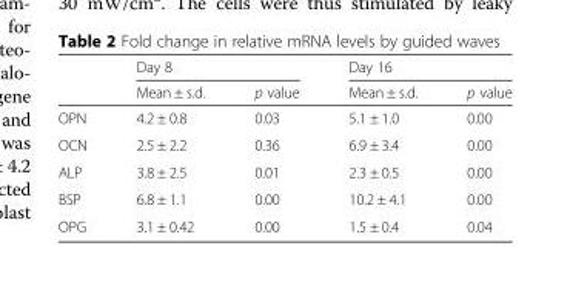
<table><thead><tr><td rowspan="2"></td><td colspan="2">Day 8</td><td colspan="2">Day 16</td></tr><tr><td>Mean ± s.d.</td><td>p value</td><td>Mean ± s.d.</td><td>p value</td></tr></thead><tbody><tr><td>OPN</td><td>4.2 ± 0.8</td><td>0.03</td><td>5.1 ± 1.0</td><td>0.00</td></tr><tr><td>OCN</td><td>2.5 ± 2.2</td><td>0.36</td><td>6.9 ± 3.4</td><td>0.00</td></tr><tr><td>ALP</td><td>3.8 ± 2.5</td><td>0.01</td><td>2.3 ± 0.5</td><td>0.00</td></tr><tr><td>BSP</td><td>6.8 ± 1.1</td><td>0.00</td><td>10.2 ± 4.1</td><td>0.00</td></tr><tr><td>OPG</td><td>3.1 ± 0.42</td><td>0.00</td><td>1.5 ± 0.4</td><td>0.04</td></tr></tbody></table>